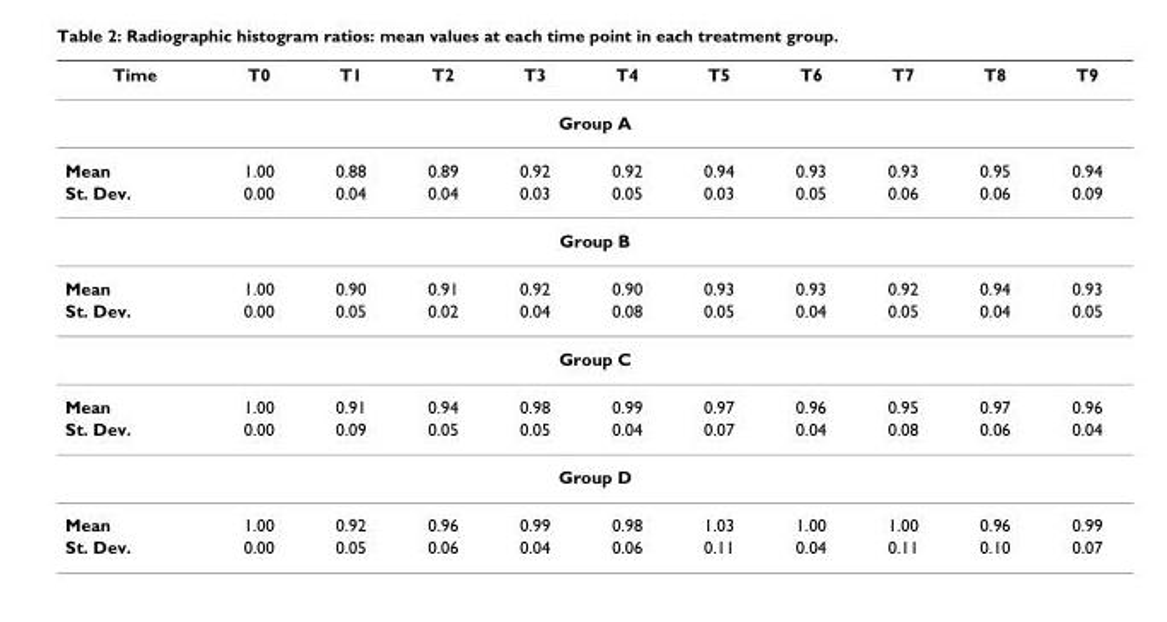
<table><thead><tr><td>Time</td><td>T0</td><td>T1</td><td>T2</td><td>T3</td><td>T4</td><td>T5</td><td>T6</td><td>T7</td><td>T8</td><td>T9</td></tr></thead><tbody><tr><td colspan="11">Group A</td></tr><tr><td>Mean</td><td>1.00</td><td>0.88</td><td>0.89</td><td>0.92</td><td>0.92</td><td>0.94</td><td>0.93</td><td>0.93</td><td>0.95</td><td>0.94</td></tr><tr><td>St. Dev.</td><td>0.00</td><td>0.04</td><td>0.04</td><td>0.03</td><td>0.05</td><td>0.03</td><td>0.05</td><td>0.06</td><td>0.06</td><td>0.09</td></tr><tr><td colspan="11">Group B</td></tr><tr><td>Mean</td><td>1.00</td><td>0.90</td><td>0.91</td><td>0.92</td><td>0.90</td><td>0.93</td><td>0.93</td><td>0.92</td><td>0.94</td><td>0.93</td></tr><tr><td>St. Dev.</td><td>0.00</td><td>0.05</td><td>0.02</td><td>0.04</td><td>0.08</td><td>0.05</td><td>0.04</td><td>0.05</td><td>0.04</td><td>0.05</td></tr><tr><td colspan="11">Group C</td></tr><tr><td>Mean</td><td>1.00</td><td>0.91</td><td>0.94</td><td>0.98</td><td>0.99</td><td>0.97</td><td>0.96</td><td>0.95</td><td>0.97</td><td>0.96</td></tr><tr><td>St. Dev.</td><td>0.00</td><td>0.09</td><td>0.05</td><td>0.05</td><td>0.04</td><td>0.07</td><td>0.04</td><td>0.08</td><td>0.06</td><td>0.04</td></tr><tr><td colspan="11">Group D</td></tr><tr><td>Mean</td><td>1.00</td><td>0.92</td><td>0.96</td><td>0.99</td><td>0.98</td><td>1.03</td><td>1.00</td><td>1.00</td><td>0.96</td><td>0.99</td></tr><tr><td>St. Dev.</td><td>0.00</td><td>0.05</td><td>0.06</td><td>0.04</td><td>0.06</td><td>0.11</td><td>0.04</td><td>0.11</td><td>0.10</td><td>0.07</td></tr></tbody></table>